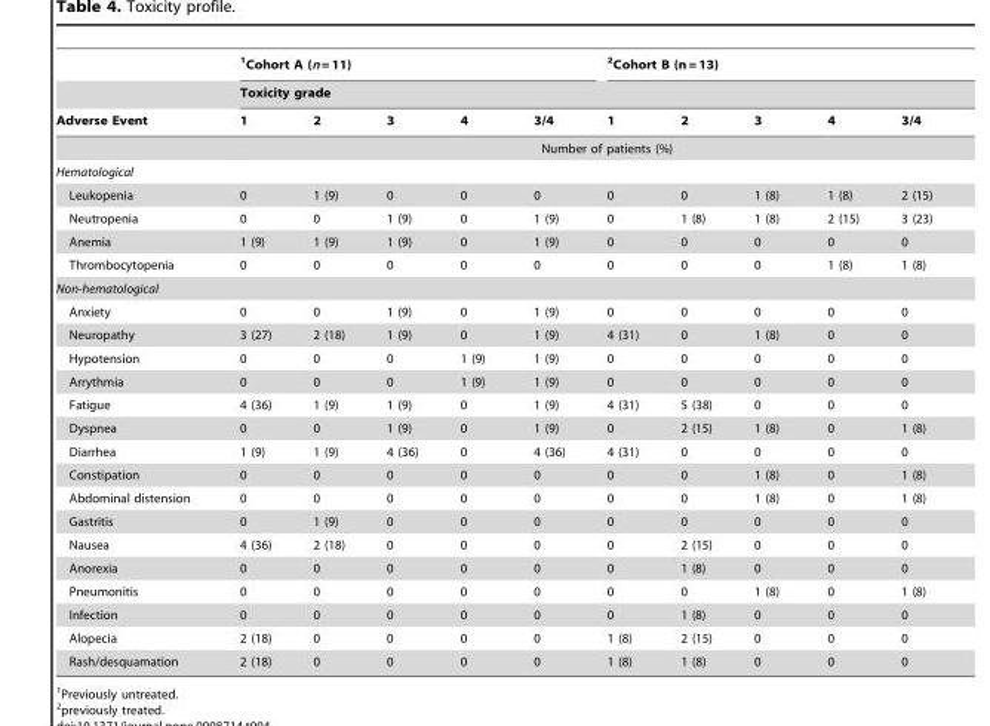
<table><thead><tr><td rowspan="3">Adverse Event</td><td colspan="5">1Cohort A (n = 11)</td><td colspan="5">2Cohort B (n = 13)</td></tr><tr><td colspan="10">Toxicity grade</td></tr><tr><td>1</td><td>2</td><td>3</td><td>4</td><td>3/4</td><td>1</td><td>2</td><td>3</td><td>4</td><td>3/4</td></tr></thead><tbody><tr><td></td><td colspan="10">Number of patients (%)</td></tr><tr><td colspan="11">Hematological</td></tr><tr><td>Leukopenia</td><td>0</td><td>1 (9)</td><td>0</td><td>0</td><td>0</td><td>0</td><td>0</td><td>1 (8)</td><td>1 (8)</td><td>2 (15)</td></tr><tr><td>Neutropenia</td><td>0</td><td>0</td><td>1 (9)</td><td>0</td><td>1 (9)</td><td>0</td><td>1 (8)</td><td>1 (8)</td><td>2 (15)</td><td>3 (23)</td></tr><tr><td>Anemia</td><td>1 (9)</td><td>1 (9)</td><td>1 (9)</td><td>0</td><td>1 (9)</td><td>0</td><td>0</td><td>0</td><td>0</td><td>0</td></tr><tr><td>Thrombocytopenia</td><td>0</td><td>0</td><td>0</td><td>0</td><td>0</td><td>0</td><td>0</td><td>0</td><td>1 (8)</td><td>1 (8)</td></tr><tr><td colspan="11">Non-hematological</td></tr><tr><td>Anxiety</td><td>0</td><td>0</td><td>1 (9)</td><td>0</td><td>1 (9)</td><td>0</td><td>0</td><td>0</td><td>0</td><td>0</td></tr><tr><td>Neuropathy</td><td>3 (27)</td><td>2 (18)</td><td>1 (9)</td><td>0</td><td>1 (9)</td><td>4 (31)</td><td>0</td><td>1 (8)</td><td>0</td><td>0</td></tr><tr><td>Hypotension</td><td>0</td><td>0</td><td>0</td><td>1 (9)</td><td>1 (9)</td><td>0</td><td>0</td><td>0</td><td>0</td><td>0</td></tr><tr><td>Arrythmia</td><td>0</td><td>0</td><td>0</td><td>1 (9)</td><td>1 (9)</td><td>0</td><td>0</td><td>0</td><td>0</td><td>0</td></tr><tr><td>Fatigue</td><td>4 (36)</td><td>1 (9)</td><td>1 (9)</td><td>0</td><td>1 (9)</td><td>4 (31)</td><td>5 (38)</td><td>0</td><td>0</td><td>0</td></tr><tr><td>Dyspnea</td><td>0</td><td>0</td><td>1 (9)</td><td>0</td><td>1 (9)</td><td>0</td><td>2 (15)</td><td>1 (8)</td><td>0</td><td>1 (8)</td></tr><tr><td>Diarrhea</td><td>1 (9)</td><td>1 (9)</td><td>4 (36)</td><td>0</td><td>4 (36)</td><td>4 (31)</td><td>0</td><td>0</td><td>0</td><td>0</td></tr><tr><td>Constipation</td><td>0</td><td>0</td><td>0</td><td>0</td><td>0</td><td>0</td><td>0</td><td>1 (8)</td><td>0</td><td>1 (8)</td></tr><tr><td>Abdominal distension</td><td>0</td><td>0</td><td>0</td><td>0</td><td>0</td><td>0</td><td>0</td><td>1 (8)</td><td>0</td><td>1 (8)</td></tr><tr><td>Gastritis</td><td>0</td><td>1 (9)</td><td>0</td><td>0</td><td>0</td><td>0</td><td>0</td><td>0</td><td>0</td><td>0</td></tr><tr><td>Nausea</td><td>4 (36)</td><td>2 (18)</td><td>0</td><td>0</td><td>0</td><td>0</td><td>2 (15)</td><td>0</td><td>0</td><td>0</td></tr><tr><td>Anorexia</td><td>0</td><td>0</td><td>0</td><td>0</td><td>0</td><td>0</td><td>1 (8)</td><td>0</td><td>0</td><td>0</td></tr><tr><td>Pneumonitis</td><td>0</td><td>0</td><td>0</td><td>0</td><td>0</td><td>0</td><td>0</td><td>1 (8)</td><td>0</td><td>1 (8)</td></tr><tr><td>Infection</td><td>0</td><td>0</td><td>0</td><td>0</td><td>0</td><td>0</td><td>1 (8)</td><td>0</td><td>0</td><td>0</td></tr><tr><td>Alopecia</td><td>2 (18)</td><td>0</td><td>0</td><td>0</td><td>0</td><td>1 (8)</td><td>2 (15)</td><td>0</td><td>0</td><td>0</td></tr><tr><td>Rash/desquamation</td><td>2 (18)</td><td>0</td><td>0</td><td>0</td><td>0</td><td>1 (8)</td><td>1 (8)</td><td>0</td><td>0</td><td>0</td></tr></tbody></table>